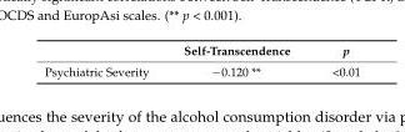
<table><thead><tr><td></td><td>Self-Transcendence</td><td>p</td></tr></thead><tbody><tr><td>Psychiatric Severity</td><td>−0.120 **</td><td>&lt;0.01</td></tr></tbody></table>